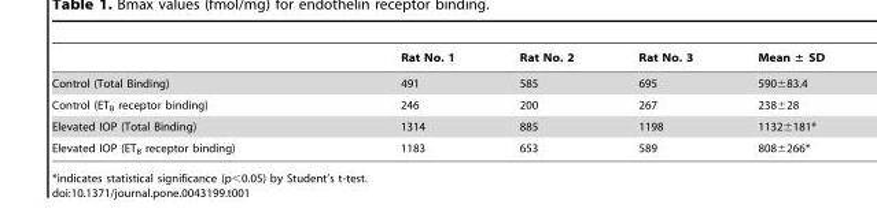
<table><thead><tr><td></td><td>Rat No. 1</td><td>Rat No. 2</td><td>Rat No. 3</td><td>Mean ± SD</td></tr></thead><tbody><tr><td>Control (Total Binding)</td><td>491</td><td>585</td><td>695</td><td>590±83.4</td></tr><tr><td>Control (ET<sub>B</sub> receptor binding)</td><td>246</td><td>200</td><td>267</td><td>238±28</td></tr><tr><td>Elevated IOP (Total Binding)</td><td>1314</td><td>885</td><td>1198</td><td>1132±181*</td></tr><tr><td>Elevated IOP (ET<sub>B</sub> receptor binding)</td><td>1183</td><td>653</td><td>589</td><td>808±266*</td></tr></tbody></table>